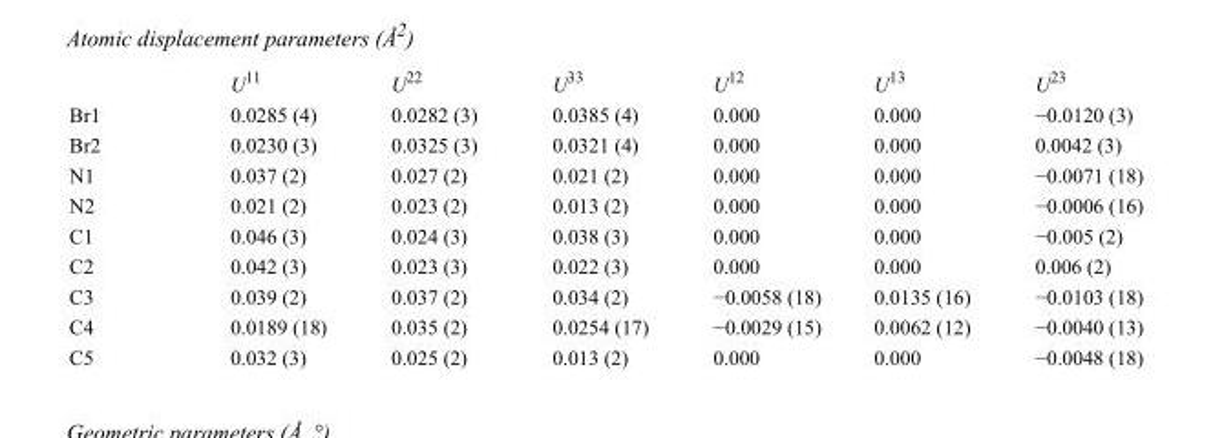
<table><thead><tr><td></td><td>U<sup>11</sup></td><td>U<sup>22</sup></td><td>U<sup>33</sup></td><td>U<sup>12</sup></td><td>U<sup>13</sup></td><td>U<sup>23</sup></td></tr></thead><tbody><tr><td>Br1</td><td>0.0285 (4)</td><td>0.0282 (3)</td><td>0.0385 (4)</td><td>0.000</td><td>0.000</td><td>−0.0120 (3)</td></tr><tr><td>Br2</td><td>0.0230 (3)</td><td>0.0325 (3)</td><td>0.0321 (4)</td><td>0.000</td><td>0.000</td><td>0.0042 (3)</td></tr><tr><td>N1</td><td>0.037 (2)</td><td>0.027 (2)</td><td>0.021 (2)</td><td>0.000</td><td>0.000</td><td>−0.0071 (18)</td></tr><tr><td>N2</td><td>0.021 (2)</td><td>0.023 (2)</td><td>0.013 (2)</td><td>0.000</td><td>0.000</td><td>−0.0006 (16)</td></tr><tr><td>C1</td><td>0.046 (3)</td><td>0.024 (3)</td><td>0.038 (3)</td><td>0.000</td><td>0.000</td><td>−0.005 (2)</td></tr><tr><td>C2</td><td>0.042 (3)</td><td>0.023 (3)</td><td>0.022 (3)</td><td>0.000</td><td>0.000</td><td>0.006 (2)</td></tr><tr><td>C3</td><td>0.039 (2)</td><td>0.037 (2)</td><td>0.034 (2)</td><td>−0.0058 (18)</td><td>0.0135 (16)</td><td>−0.0103 (18)</td></tr><tr><td>C4</td><td>0.0189 (18)</td><td>0.035 (2)</td><td>0.0254 (17)</td><td>−0.0029 (15)</td><td>0.0062 (12)</td><td>−0.0040 (13)</td></tr><tr><td>C5</td><td>0.032 (3)</td><td>0.025 (2)</td><td>0.013 (2)</td><td>0.000</td><td>0.000</td><td>−0.0048 (18)</td></tr></tbody></table>